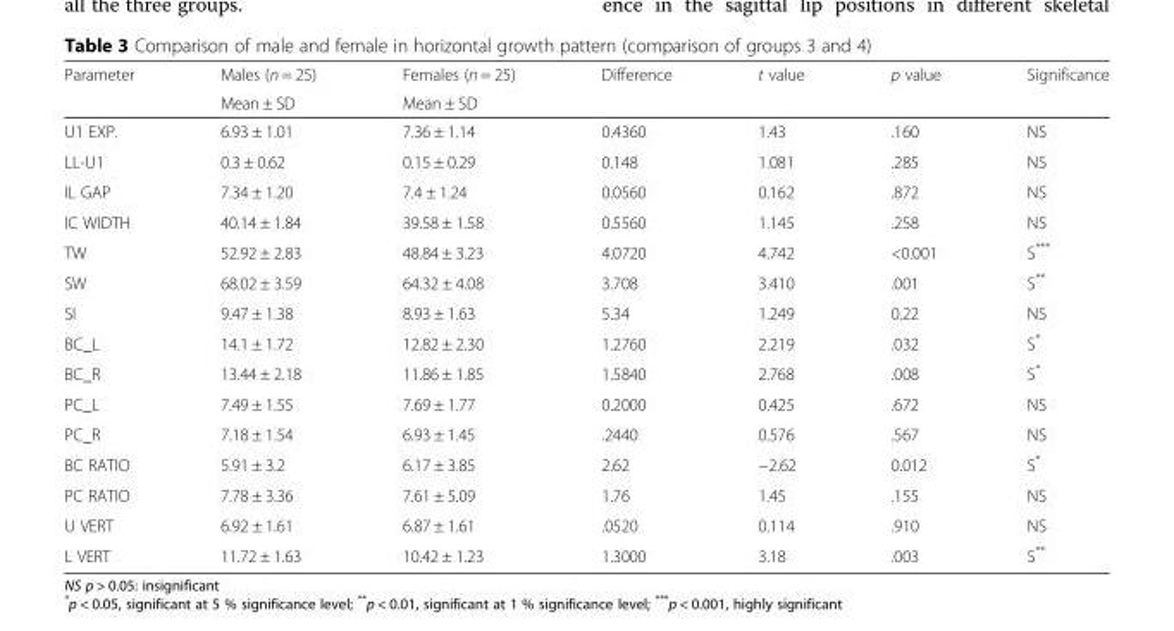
<table><thead><tr><td rowspan="2">Parameter</td><td rowspan="2">Males (n = 25) Mean ± SD</td><td rowspan="2">Females (n = 25) Mean ± SD</td><td rowspan="2">Difference</td><td rowspan="2">t value</td><td rowspan="2">p value</td><td rowspan="2">Significance</td></tr><tr></tr></thead><tbody><tr><td>U1 EXP.</td><td>6.93 ± 1.01</td><td>7.36 ± 1.14</td><td>0.4360</td><td>1.43</td><td>.160</td><td>NS</td></tr><tr><td>LL-U1</td><td>0.3 ± 0.62</td><td>0.15 ± 0.29</td><td>0.148</td><td>1.081</td><td>.285</td><td>NS</td></tr><tr><td>IL GAP</td><td>7.34 ± 1.20</td><td>7.4 ± 1.24</td><td>0.0560</td><td>0.162</td><td>.872</td><td>NS</td></tr><tr><td>IC WIDTH</td><td>40.14 ± 1.84</td><td>39.58 ± 1.58</td><td>0.5560</td><td>1.145</td><td>.258</td><td>NS</td></tr><tr><td>TW</td><td>52.92 ± 2.83</td><td>48.84 ± 3.23</td><td>4.0720</td><td>4.742</td><td>&lt;0.001</td><td>S***</td></tr><tr><td>SW</td><td>68.02 ± 3.59</td><td>64.32 ± 4.08</td><td>3.708</td><td>3.410</td><td>.001</td><td>S**</td></tr><tr><td>SI</td><td>9.47 ± 1.38</td><td>8.93 ± 1.63</td><td>5.34</td><td>1.249</td><td>0.22</td><td>NS</td></tr><tr><td>BC_L</td><td>14.1 ± 1.72</td><td>12.82 ± 2.30</td><td>1.2760</td><td>2.219</td><td>.032</td><td>S*</td></tr><tr><td>BC_R</td><td>13.44 ± 2.18</td><td>11.86 ± 1.85</td><td>1.5840</td><td>2.768</td><td>.008</td><td>S*</td></tr><tr><td>PC_L</td><td>7.49 ± 1.55</td><td>7.69 ± 1.77</td><td>0.2000</td><td>0.425</td><td>.672</td><td>NS</td></tr><tr><td>PC_R</td><td>7.18 ± 1.54</td><td>6.93 ± 1.45</td><td>.2440</td><td>0.576</td><td>.567</td><td>NS</td></tr><tr><td>BC RATIO</td><td>5.91 ± 3.2</td><td>6.17 ± 3.85</td><td>2.62</td><td>−2.62</td><td>0.012</td><td>S*</td></tr><tr><td>PC RATIO</td><td>7.78 ± 3.36</td><td>7.61 ± 5.09</td><td>1.76</td><td>1.45</td><td>.155</td><td>NS</td></tr><tr><td>U VERT</td><td>6.92 ± 1.61</td><td>6.87 ± 1.61</td><td>.0520</td><td>0.114</td><td>.910</td><td>NS</td></tr><tr><td>L VERT</td><td>11.72 ± 1.63</td><td>10.42 ± 1.23</td><td>1.3000</td><td>3.18</td><td>.003</td><td>S**</td></tr></tbody></table>